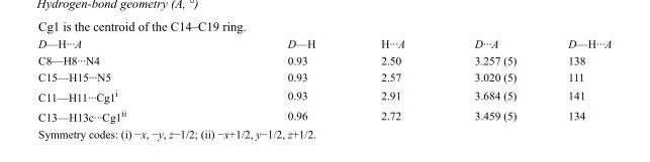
<table><tbody><tr><td>D—H···A</td><td>D—H</td><td>H···A</td><td>D···A</td><td>D—H···A</td></tr><tr><td>C8—H8···N4</td><td>0.93</td><td>2.50</td><td>3.257 (5)</td><td>138</td></tr><tr><td>C15—H15···N5</td><td>0.93</td><td>2.57</td><td>3.020 (5)</td><td>111</td></tr><tr><td>C11—H11···Cg1<sup>i</sup></td><td>0.93</td><td>2.91</td><td>3.684 (5)</td><td>141</td></tr><tr><td>C13—H13c···Cg1<sup>ii</sup></td><td>0.96</td><td>2.72</td><td>3.459 (5)</td><td>134</td></tr></tbody></table>